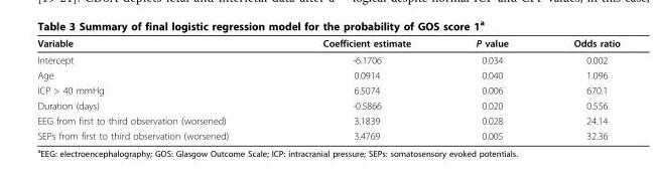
<table><thead><tr><td>Variable</td><td>Coefficient estimate</td><td>P value</td><td>Odds ratio</td></tr></thead><tbody><tr><td>Intercept</td><td>-6.1706</td><td>0.034</td><td>0.002</td></tr><tr><td>Age</td><td>0.0914</td><td>0.040</td><td>1.096</td></tr><tr><td>ICP &gt; 40 mmHg</td><td>6.5074</td><td>0.006</td><td>670.1</td></tr><tr><td>Duration (days)</td><td>-0.5866</td><td>0.020</td><td>0.556</td></tr><tr><td>EEG from first to third observation (worsened)</td><td>3.1839</td><td>0.028</td><td>24.14</td></tr><tr><td>SEPs from first to third observation (worsened)</td><td>3.4769</td><td>0.005</td><td>32.36</td></tr></tbody></table>